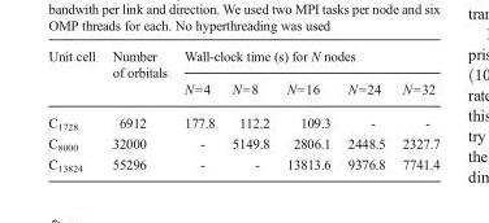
<table><thead><tr><td rowspan="2">Unit cell</td><td rowspan="2">Number of orbitals</td><td colspan="5">Wall-clock time (s) for N nodes</td></tr><tr><td>N=4</td><td>N=8</td><td>N=16</td><td>N=24</td><td>N=32</td></tr></thead><tbody><tr><td>C<sub>1728</sub></td><td>6912</td><td>177.8</td><td>112.2</td><td>109.3</td><td>-</td><td>-</td></tr><tr><td>C<sub>8000</sub></td><td>32000</td><td>-</td><td>5149.8</td><td>2806.1</td><td>2448.5</td><td>2327.7</td></tr><tr><td>C<sub>13824</sub></td><td>55296</td><td>-</td><td>-</td><td>13813.6</td><td>9376.8</td><td>7741.4</td></tr></tbody></table>